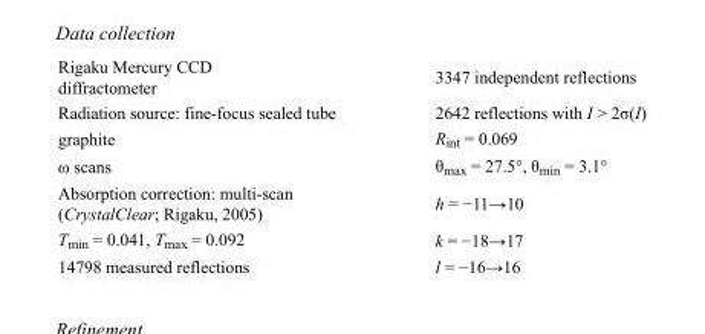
<table><tbody><tr><td>Rigaku Mercury CCD diffractometer</td><td>3347 independent reflections</td></tr><tr><td>Radiation source: fine-focus sealed tube</td><td>2642 reflections with I &gt; 2σ(I)</td></tr><tr><td>graphite</td><td>R<sub>int</sub> = 0.069</td></tr><tr><td>ω scans</td><td>θ<sub>max</sub> = 27.5°, θ<sub>min</sub> = 3.1°</td></tr><tr><td>Absorption correction: multi-scan (CrystalClear; Rigaku, 2005)</td><td>h = −11→10</td></tr><tr><td>T<sub>min</sub> = 0.041, T<sub>max</sub> = 0.092</td><td>k = −18→17</td></tr><tr><td>14798 measured reflections</td><td>l = −16→16</td></tr></tbody></table>